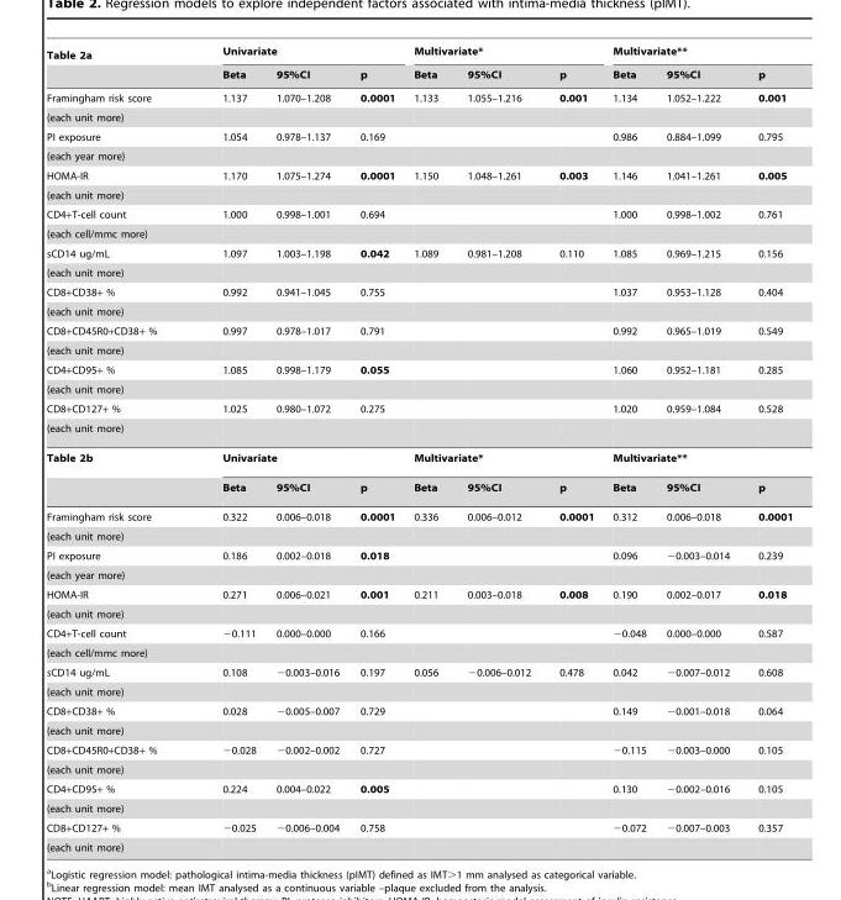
<table><thead><tr><td rowspan="2">Table 2a</td><td colspan="3">Univariate</td><td colspan="3">Multivariate*</td><td colspan="3">Multivariate**</td></tr><tr><td>Beta</td><td>95%CI</td><td>p</td><td>Beta</td><td>95%CI</td><td>p</td><td>Beta</td><td>95%CI</td><td>p</td></tr></thead><tbody><tr><td>Framingham risk score</td><td>1.137</td><td>1.070–1.208</td><td>0.0001</td><td>1.133</td><td>1.055–1.216</td><td>0.001</td><td>1.134</td><td>1.052–1.222</td><td>0.001</td></tr><tr><td colspan="10">(each unit more)</td></tr><tr><td>PI exposure</td><td>1.054</td><td>0.978–1.137</td><td>0.169</td><td></td><td></td><td></td><td>0.986</td><td>0.884–1.099</td><td>0.795</td></tr><tr><td colspan="10">(each year more)</td></tr><tr><td>HOMA-IR</td><td>1.170</td><td>1.075–1.274</td><td>0.0001</td><td>1.150</td><td>1.048–1.261</td><td>0.003</td><td>1.146</td><td>1.041–1.261</td><td>0.005</td></tr><tr><td colspan="10">(each unit more)</td></tr><tr><td>CD4+T-cell count</td><td>1.000</td><td>0.998–1.001</td><td>0.694</td><td></td><td></td><td></td><td>1.000</td><td>0.998–1.002</td><td>0.761</td></tr><tr><td colspan="10">(each cell/mmc more)</td></tr><tr><td>sCD14 ug/mL</td><td>1.097</td><td>1.003–1.198</td><td>0.042</td><td>1.089</td><td>0.981–1.208</td><td>0.110</td><td>1.085</td><td>0.969–1.215</td><td>0.156</td></tr><tr><td colspan="10">(each unit more)</td></tr><tr><td>CD8+CD38+ %</td><td>0.992</td><td>0.941–1.045</td><td>0.755</td><td></td><td></td><td></td><td>1.037</td><td>0.953–1.128</td><td>0.404</td></tr><tr><td colspan="10">(each unit more)</td></tr><tr><td>CD8+CD45R0+CD38+ %</td><td>0.997</td><td>0.978–1.017</td><td>0.791</td><td></td><td></td><td></td><td>0.992</td><td>0.965–1.019</td><td>0.549</td></tr><tr><td colspan="10">(each unit more)</td></tr><tr><td>CD4+CD95+ %</td><td>1.085</td><td>0.998–1.179</td><td>0.055</td><td></td><td></td><td></td><td>1.060</td><td>0.952–1.181</td><td>0.285</td></tr><tr><td colspan="10">(each unit more)</td></tr><tr><td>CD8+CD127+ %</td><td>1.025</td><td>0.980–1.072</td><td>0.275</td><td></td><td></td><td></td><td>1.020</td><td>0.959–1.084</td><td>0.528</td></tr><tr><td colspan="10">(each unit more)</td></tr><tr><td rowspan="2">Table 2b</td><td colspan="3">Univariate</td><td colspan="3">Multivariate*</td><td colspan="3">Multivariate**</td></tr><tr><td>Beta</td><td>95%CI</td><td>p</td><td>Beta</td><td>95%CI</td><td>p</td><td>Beta</td><td>95%CI</td><td>p</td></tr><tr><td>Framingham risk score</td><td>0.322</td><td>0.006–0.018</td><td>0.0001</td><td>0.336</td><td>0.006–0.012</td><td>0.0001</td><td>0.312</td><td>0.006–0.018</td><td>0.0001</td></tr><tr><td colspan="10">(each unit more)</td></tr><tr><td>PI exposure</td><td>0.186</td><td>0.002–0.018</td><td>0.018</td><td></td><td></td><td></td><td>0.096</td><td>−0.003–0.014</td><td>0.239</td></tr><tr><td colspan="10">(each year more)</td></tr><tr><td>HOMA-IR</td><td>0.271</td><td>0.006–0.021</td><td>0.001</td><td>0.211</td><td>0.003–0.018</td><td>0.008</td><td>0.190</td><td>0.002–0.017</td><td>0.018</td></tr><tr><td colspan="10">(each unit more)</td></tr><tr><td>CD4+T-cell count</td><td>−0.111</td><td>0.000–0.000</td><td>0.166</td><td></td><td></td><td></td><td>−0.048</td><td>0.000–0.000</td><td>0.587</td></tr><tr><td colspan="10">(each cell/mmc more)</td></tr><tr><td>sCD14 ug/mL</td><td>0.108</td><td>−0.003–0.016</td><td>0.197</td><td>0.056</td><td>−0.006–0.012</td><td>0.478</td><td>0.042</td><td>−0.007–0.012</td><td>0.608</td></tr><tr><td colspan="10">(each unit more)</td></tr><tr><td>CD8+CD38+ %</td><td>0.028</td><td>−0.005–0.007</td><td>0.729</td><td></td><td></td><td></td><td>0.149</td><td>−0.001–0.018</td><td>0.064</td></tr><tr><td colspan="10">(each unit more)</td></tr><tr><td>CD8+CD45R0+CD38+ %</td><td>−0.028</td><td>−0.002–0.002</td><td>0.727</td><td></td><td></td><td></td><td>−0.115</td><td>−0.003–0.000</td><td>0.105</td></tr><tr><td colspan="10">(each unit more)</td></tr><tr><td>CD4+CD95+ %</td><td>0.224</td><td>0.004–0.022</td><td>0.005</td><td></td><td></td><td></td><td>0.130</td><td>−0.002–0.016</td><td>0.105</td></tr><tr><td colspan="10">(each unit more)</td></tr><tr><td>CD8+CD127+ %</td><td>−0.025</td><td>−0.006–0.004</td><td>0.758</td><td></td><td></td><td></td><td>−0.072</td><td>−0.007–0.003</td><td>0.357</td></tr><tr><td>(each unit more)</td><td></td><td></td><td></td><td></td><td></td><td></td><td></td><td></td><td></td></tr></tbody></table>